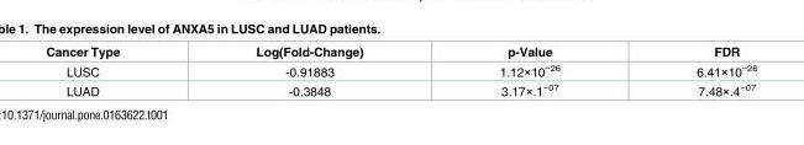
<table><thead><tr><td>Cancer Type</td><td>Log(Fold-Change)</td><td>p-Value</td><td>FDR</td></tr></thead><tbody><tr><td>LUSC</td><td>-0.91883</td><td>1.12×10<sup>−26</sup></td><td>6.41×10<sup>−26</sup></td></tr><tr><td>LUAD</td><td>-0.3848</td><td>3.17×.1<sup>−07</sup></td><td>7.48×.4<sup>−07</sup></td></tr></tbody></table>